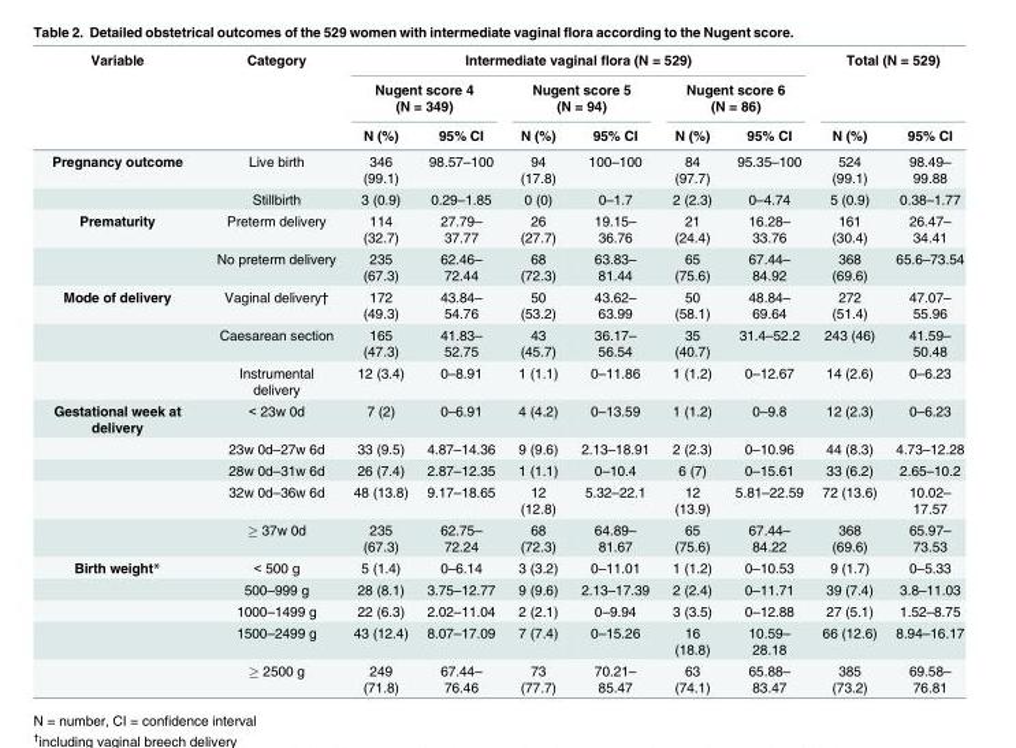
<table><thead><tr><td rowspan="3">Variable</td><td rowspan="3">Category</td><td colspan="6">Intermediate vaginal flora (N = 529)</td><td colspan="2">Total (N = 529)</td></tr><tr><td colspan="2">Nugent score 4 (N = 349)</td><td colspan="2">Nugent score 5 (N = 94)</td><td colspan="2">Nugent score 6 (N = 86)</td><td rowspan="2">N (%)</td><td rowspan="2">95% CI</td></tr><tr><td>N (%)</td><td>95% CI</td><td>N (%)</td><td>95% CI</td><td>N (%)</td><td>95% CI</td></tr></thead><tbody><tr><td rowspan="2">Pregnancy outcome</td><td>Live birth</td><td>346 (99.1)</td><td>98.57–100</td><td>94 (17.8)</td><td>100–100</td><td>84 (97.7)</td><td>95.35–100</td><td>524 (99.1)</td><td>98.49– 99.88</td></tr><tr><td>Stillbirth</td><td>3 (0.9)</td><td>0.29–1.85</td><td>0 (0)</td><td>0–1.7</td><td>2 (2.3)</td><td>0–4.74</td><td>5 (0.9)</td><td>0.38–1.77</td></tr><tr><td rowspan="2">Prematurity</td><td>Preterm delivery</td><td>114 (32.7)</td><td>27.79– 37.77</td><td>26 (27.7)</td><td>19.15– 36.76</td><td>21 (24.4)</td><td>16.28– 33.76</td><td>161 (30.4)</td><td>26.47– 34.41</td></tr><tr><td>No preterm delivery</td><td>235 (67.3)</td><td>62.46– 72.44</td><td>68 (72.3)</td><td>63.83– 81.44</td><td>65 (75.6)</td><td>67.44– 84.92</td><td>368 (69.6)</td><td>65.6–73.54</td></tr><tr><td rowspan="3">Mode of delivery</td><td>Vaginal delivery†</td><td>172 (49.3)</td><td>43.84– 54.76</td><td>50 (53.2)</td><td>43.62– 63.99</td><td>50 (58.1)</td><td>48.84– 69.64</td><td>272 (51.4)</td><td>47.07– 55.96</td></tr><tr><td>Caesarean section</td><td>165 (47.3)</td><td>41.83– 52.75</td><td>43 (45.7)</td><td>36.17– 56.54</td><td>35 (40.7)</td><td>31.4–52.2</td><td>243 (46)</td><td>41.59– 50.48</td></tr><tr><td>Instrumental delivery</td><td>12 (3.4)</td><td>0–8.91</td><td>1 (1.1)</td><td>0–11.86</td><td>1 (1.2)</td><td>0–12.67</td><td>14 (2.6)</td><td>0–6.23</td></tr><tr><td rowspan="5">Gestational week at delivery</td><td>&lt; 23w 0d</td><td>7 (2)</td><td>0–6.91</td><td>4 (4.2)</td><td>0–13.59</td><td>1 (1.2)</td><td>0–9.8</td><td>12 (2.3)</td><td>0–6.23</td></tr><tr><td>23w 0d–27w 6d</td><td>33 (9.5)</td><td>4.87–14.36</td><td>9 (9.6)</td><td>2.13–18.91</td><td>2 (2.3)</td><td>0–10.96</td><td>44 (8.3)</td><td>4.73–12.28</td></tr><tr><td>28w 0d–31w 6d</td><td>26 (7.4)</td><td>2.87–12.35</td><td>1 (1.1)</td><td>0–10.4</td><td>6 (7)</td><td>0–15.61</td><td>33 (6.2)</td><td>2.65–10.2</td></tr><tr><td>32w 0d–36w 6d</td><td>48 (13.8)</td><td>9.17–18.65</td><td>12 (12.8)</td><td>5.32–22.1</td><td>12 (13.9)</td><td>5.81–22.59</td><td>72 (13.6)</td><td>10.02– 17.57</td></tr><tr><td>≥ 37w 0d</td><td>235 (67.3)</td><td>62.75– 72.24</td><td>68 (72.3)</td><td>64.89– 81.67</td><td>65 (75.6)</td><td>67.44– 84.22</td><td>368 (69.6)</td><td>65.97– 73.53</td></tr><tr><td rowspan="5">Birth weight*</td><td>&lt; 500 g</td><td>5 (1.4)</td><td>0–6.14</td><td>3 (3.2)</td><td>0–11.01</td><td>1 (1.2)</td><td>0–10.53</td><td>9 (1.7)</td><td>0–5.33</td></tr><tr><td>500–999 g</td><td>28 (8.1)</td><td>3.75–12.77</td><td>9 (9.6)</td><td>2.13–17.39</td><td>2 (2.4)</td><td>0–11.71</td><td>39 (7.4)</td><td>3.8–11.03</td></tr><tr><td>1000–1499 g</td><td>22 (6.3)</td><td>2.02–11.04</td><td>2 (2.1)</td><td>0–9.94</td><td>3 (3.5)</td><td>0–12.88</td><td>27 (5.1)</td><td>1.52–8.75</td></tr><tr><td>1500–2499 g</td><td>43 (12.4)</td><td>8.07–17.09</td><td>7 (7.4)</td><td>0–15.26</td><td>16 (18.8)</td><td>10.59– 28.18</td><td>66 (12.6)</td><td>8.94–16.17</td></tr><tr><td>≥ 2500 g</td><td>249 (71.8)</td><td>67.44– 76.46</td><td>73 (77.7)</td><td>70.21– 85.47</td><td>63 (74.1)</td><td>65.88– 83.47</td><td>385 (73.2)</td><td>69.58– 76.81</td></tr></tbody></table>